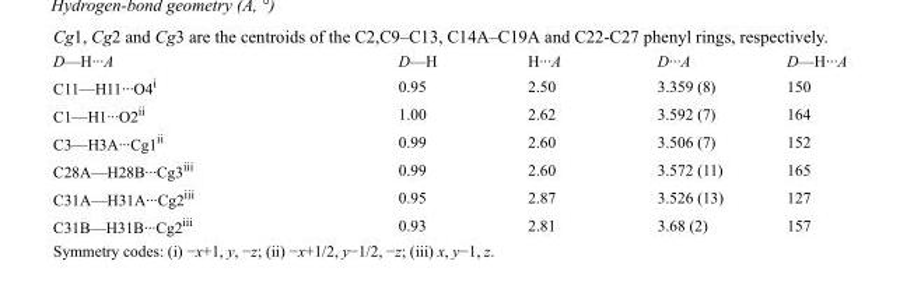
<table><tbody><tr><td>D—H···A</td><td>D—H</td><td>H···A</td><td>D···A</td><td>D—H···A</td></tr><tr><td>C11—H11···O4<sup>i</sup></td><td>0.95</td><td>2.50</td><td>3.359 (8)</td><td>150</td></tr><tr><td>C1—H1···O2<sup>ii</sup></td><td>1.00</td><td>2.62</td><td>3.592 (7)</td><td>164</td></tr><tr><td>C3—H3A···Cg1<sup>ii</sup></td><td>0.99</td><td>2.60</td><td>3.506 (7)</td><td>152</td></tr><tr><td>C28A—H28B···Cg3<sup>iii</sup></td><td>0.99</td><td>2.60</td><td>3.572 (11)</td><td>165</td></tr><tr><td>C31A—H31A···Cg2<sup>iii</sup></td><td>0.95</td><td>2.87</td><td>3.526 (13)</td><td>127</td></tr><tr><td>C31B—H31B···Cg2<sup>iii</sup></td><td>0.93</td><td>2.81</td><td>3.68 (2)</td><td>157</td></tr></tbody></table>